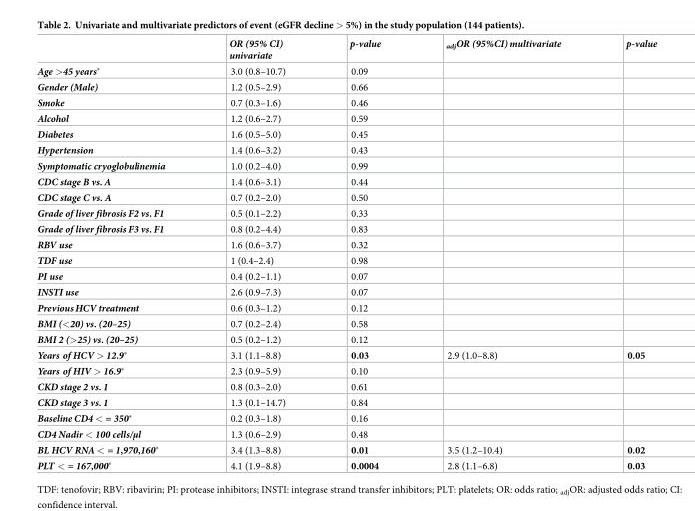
<table><thead><tr><td></td><td>OR (95% CI) univariate</td><td>p-value</td><td><sub>adj</sub>OR (95%CI) multivariate</td><td>p-value</td></tr></thead><tbody><tr><td>Age &gt;45 years*</td><td>3.0 (0.8–10.7)</td><td>0.09</td><td></td><td></td></tr><tr><td>Gender (Male)</td><td>1.2 (0.5–2.9)</td><td>0.66</td><td></td><td></td></tr><tr><td>Smoke</td><td>0.7 (0.3–1.6)</td><td>0.46</td><td></td><td></td></tr><tr><td>Alcohol</td><td>1.2 (0.6–2.7)</td><td>0.59</td><td></td><td></td></tr><tr><td>Diabetes</td><td>1.6 (0.5–5.0)</td><td>0.45</td><td></td><td></td></tr><tr><td>Hypertension</td><td>1.4 (0.6–3.2)</td><td>0.43</td><td></td><td></td></tr><tr><td>Symptomatic cryoglobulinemia</td><td>1.0 (0.2–4.0)</td><td>0.99</td><td></td><td></td></tr><tr><td>CDC stage B vs. A</td><td>1.4 (0.6–3.1)</td><td>0.44</td><td></td><td></td></tr><tr><td>CDC stage C vs. A</td><td>0.7 (0.2–2.0)</td><td>0.50</td><td></td><td></td></tr><tr><td>Grade of liver fibrosis F2 vs. F1</td><td>0.5 (0.1–2.2)</td><td>0.33</td><td></td><td></td></tr><tr><td>Grade of liver fibrosis F3 vs. F1</td><td>0.8 (0.2–4.4)</td><td>0.83</td><td></td><td></td></tr><tr><td>RBV use</td><td>1.6 (0.6–3.7)</td><td>0.32</td><td></td><td></td></tr><tr><td>TDF use</td><td>1 (0.4–2.4)</td><td>0.98</td><td></td><td></td></tr><tr><td>PI use</td><td>0.4 (0.2–1.1)</td><td>0.07</td><td></td><td></td></tr><tr><td>INSTI use</td><td>2.6 (0.9–7.3)</td><td>0.07</td><td></td><td></td></tr><tr><td>PreviousHCV treatment</td><td>0.6 (0.3–1.2)</td><td>0.12</td><td></td><td></td></tr><tr><td>BMI (&lt;20) vs. (20–25)</td><td>0.7 (0.2–2.4)</td><td>0.58</td><td></td><td></td></tr><tr><td>BMI 2 (&gt;25) vs. (20–25)</td><td>0.5 (0.2–1.2)</td><td>0.12</td><td></td><td></td></tr><tr><td>Years of HCV &gt; 12.9*</td><td>3.1 (1.1–8.8)</td><td>0.03</td><td>2.9 (1.0–8.8)</td><td>0.05</td></tr><tr><td>Years of HIV &gt; 16.9*</td><td>2.3 (0.9–5.9)</td><td>0.10</td><td></td><td></td></tr><tr><td>CKD stage 2 vs. 1</td><td>0.8 (0.3–2.0)</td><td>0.61</td><td></td><td></td></tr><tr><td>CKD stage 3 vs. 1</td><td>1.3 (0.1–14.7)</td><td>0.84</td><td></td><td></td></tr><tr><td>Baseline CD4 &lt; = 350*</td><td>0.2 (0.3–1.8)</td><td>0.16</td><td></td><td></td></tr><tr><td>CD4 Nadir &lt; 100 cells/μl</td><td>1.3 (0.6–2.9)</td><td>0.48</td><td></td><td></td></tr><tr><td>BL HCV RNA &lt; = 1,970,160*</td><td>3.4 (1.3–8.8)</td><td>0.01</td><td>3.5 (1.2–10.4)</td><td>0.02</td></tr><tr><td>PLT &lt; = 167,000*</td><td>4.1 (1.9–8.8)</td><td>0.0004</td><td>2.8 (1.1–6.8)</td><td>0.03</td></tr></tbody></table>